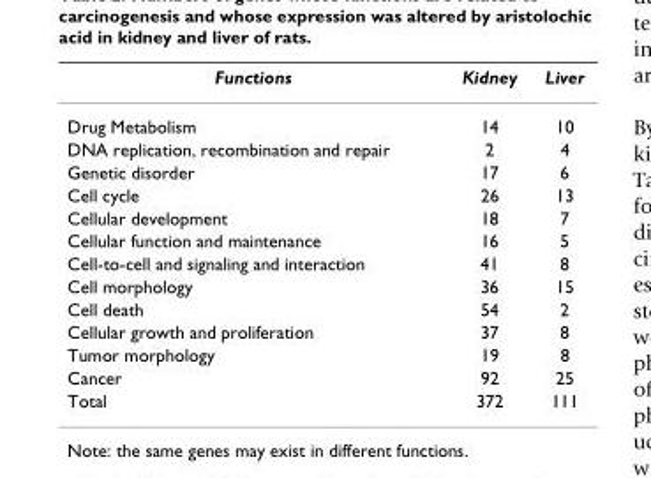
<table><thead><tr><td>Functions</td><td>Kidney</td><td>Liver</td></tr></thead><tbody><tr><td>Drug Metabolism</td><td>14</td><td>10</td></tr><tr><td>DNA replication, recombination and repair</td><td>2</td><td>4</td></tr><tr><td>Genetic disorder</td><td>17</td><td>6</td></tr><tr><td>Cell cycle</td><td>26</td><td>13</td></tr><tr><td>Cellular development</td><td>18</td><td>7</td></tr><tr><td>Cellular function and maintenance</td><td>16</td><td>5</td></tr><tr><td>Cell-to-cell and signaling and interaction</td><td>41</td><td>8</td></tr><tr><td>Cell morphology</td><td>36</td><td>15</td></tr><tr><td>Cell death</td><td>54</td><td>2</td></tr><tr><td>Cellular growth and proliferation</td><td>37</td><td>8</td></tr><tr><td>Tumor morphology</td><td>19</td><td>8</td></tr><tr><td>Cancer</td><td>92</td><td>25</td></tr><tr><td>Total</td><td>372</td><td>111</td></tr></tbody></table>